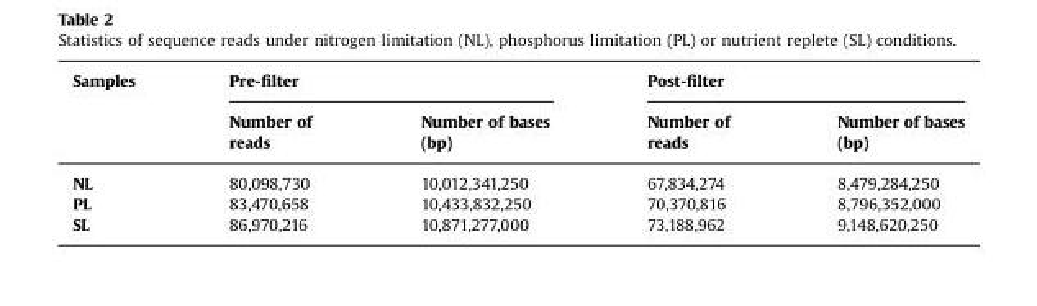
<table><thead><tr><td rowspan="2">Samples</td><td colspan="2">Pre-filter</td><td colspan="2">Post-filter</td></tr><tr><td>Number of reads</td><td>Number of bases (bp)</td><td>Number of reads</td><td>Number of bases (bp)</td></tr></thead><tbody><tr><td>NL</td><td>80,098,730</td><td>10,012,341,250</td><td>67,834,274</td><td>8,479,284,250</td></tr><tr><td>PL</td><td>83,470,658</td><td>10,433,832,250</td><td>70,370,816</td><td>8,796,352,000</td></tr><tr><td>SL</td><td>86,970,216</td><td>10,871,277,000</td><td>73,188,962</td><td>9,148,620,250</td></tr></tbody></table>